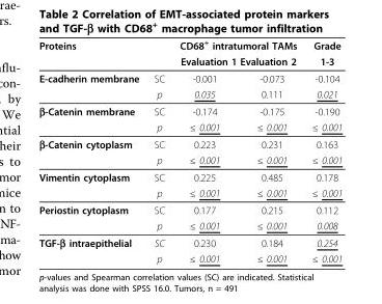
<table><thead><tr><td rowspan="3">Proteins E-cadherin membrane</td><td rowspan="3">SC</td><td rowspan="2" colspan="2">CD68+ intratumoral TAMs Evaluation 1 Evaluation 2</td><td rowspan="3">Grade 1-3 -0.104</td></tr><tr></tr><tr><td>-0.001</td><td>-0.073</td></tr></thead><tbody><tr><td></td><td>p</td><td>0.035</td><td>0.111</td><td>0.021</td></tr><tr><td rowspan="2">β-Catenin membrane</td><td>SC</td><td>-0.174</td><td>-0.175</td><td>-0.190</td></tr><tr><td>p</td><td>≤ 0.001</td><td>≤ 0.001</td><td>≤ 0.001</td></tr><tr><td rowspan="2">β-Catenin cytoplasm</td><td>SC</td><td>0.223</td><td>0.231</td><td>0.163</td></tr><tr><td>p</td><td>≤ 0.001</td><td>≤ 0.001</td><td>≤ 0.001</td></tr><tr><td rowspan="2">Vimentin cytoplasm</td><td>SC</td><td>0.225</td><td>0.485</td><td>0.178</td></tr><tr><td>p</td><td>≤ 0.001</td><td>≤ 0.001</td><td>≤ 0.001</td></tr><tr><td rowspan="2">Periostin cytoplasm</td><td>SC</td><td>0.177</td><td>0.215</td><td>0.112</td></tr><tr><td>p</td><td>≤ 0.001</td><td>≤ 0.001</td><td>0.008</td></tr><tr><td rowspan="2">TGF-β intraepithelial</td><td>SC</td><td>0.230</td><td>0.184</td><td>0.254</td></tr><tr><td>p</td><td>≤ 0.001</td><td>≤ 0.001</td><td>≤ 0.001</td></tr></tbody></table>